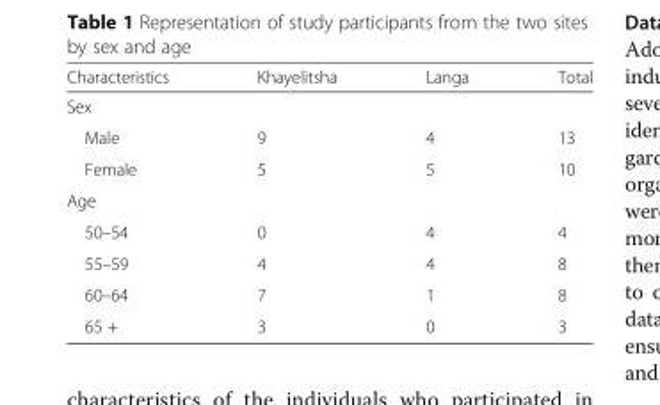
<table><thead><tr><td>Characteristics</td><td>Khayelitsha</td><td>Langa</td><td>Total</td></tr></thead><tbody><tr><td colspan="4">Sex</td></tr><tr><td>Male</td><td>9</td><td>4</td><td>13</td></tr><tr><td>Female</td><td>5</td><td>5</td><td>10</td></tr><tr><td colspan="4">Age</td></tr><tr><td>50–54</td><td>0</td><td>4</td><td>4</td></tr><tr><td>55–59</td><td>4</td><td>4</td><td>8</td></tr><tr><td>60–64</td><td>7</td><td>1</td><td>8</td></tr><tr><td>65 +</td><td>3</td><td>0</td><td>3</td></tr></tbody></table>